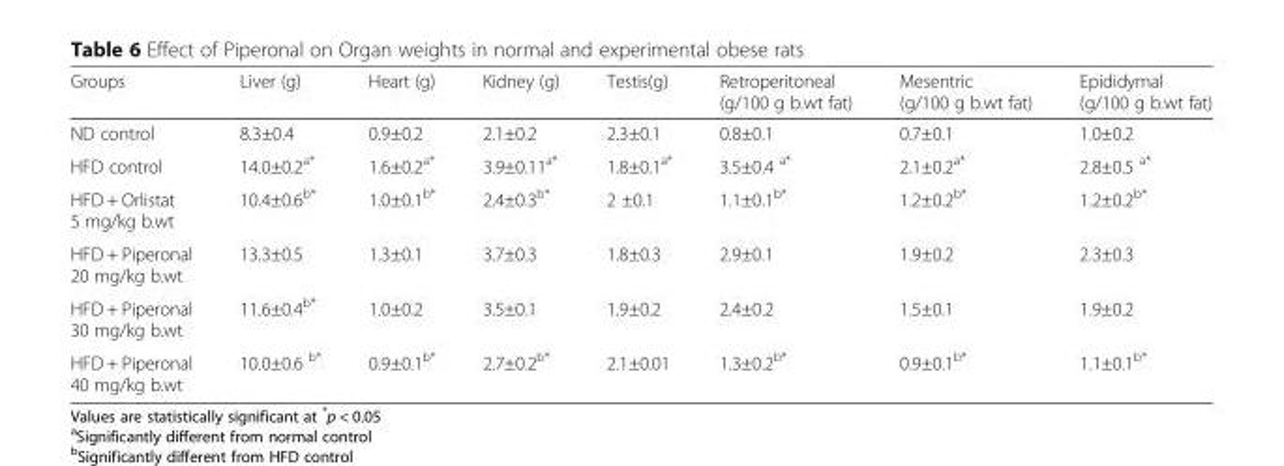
<table><thead><tr><td>Groups</td><td>Liver (g)</td><td>Heart (g)</td><td>Kidney (g)</td><td>Testis(g)</td><td>Retroperitoneal (g/100 g b.wt fat)</td><td>Mesentric (g/100 g b.wt fat)</td><td>Epididymal (g/100 g b.wt fat)</td></tr></thead><tbody><tr><td>ND control</td><td>8.3±0.4</td><td>0.9±0.2</td><td>2.1±0.2</td><td>2.3±0.1</td><td>0.8±0.1</td><td>0.7±0.1</td><td>1.0±0.2</td></tr><tr><td>HFD control</td><td>14.0±0.2<sup>a*</sup></td><td>1.6±0.2<sup>a*</sup></td><td>3.9±0.11<sup>a*</sup></td><td>1.8±0.1<sup>a*</sup></td><td>3.5±0.4 <sup>a*</sup></td><td>2.1±0.2<sup>a*</sup></td><td>2.8±0.5 <sup>a*</sup></td></tr><tr><td>HFD + Orlistat 5 mg/kg b.wt</td><td>10.4±0.6<sup>b*</sup></td><td>1.0±0.1<sup>b*</sup></td><td>2.4±0.3<sup>b*</sup></td><td>2 ±0.1</td><td>1.1±0.1<sup>b*</sup></td><td>1.2±0.2<sup>b*</sup></td><td>1.2±0.2<sup>b*</sup></td></tr><tr><td>HFD + Piperonal 20 mg/kg b.wt</td><td>13.3±0.5</td><td>1.3±0.1</td><td>3.7±0.3</td><td>1.8±0.3</td><td>2.9±0.1</td><td>1.9±0.2</td><td>2.3±0.3</td></tr><tr><td>HFD + Piperonal 30 mg/kg b.wt</td><td>11.6±0.4<sup>b*</sup></td><td>1.0±0.2</td><td>3.5±0.1</td><td>1.9±0.2</td><td>2.4±0.2</td><td>1.5±0.1</td><td>1.9±0.2</td></tr><tr><td>HFD + Piperonal 40 mg/kg b.wt</td><td>10.0±0.6 <sup>b*</sup></td><td>0.9±0.1<sup>b*</sup></td><td>2.7±0.2<sup>b*</sup></td><td>2.1±0.01</td><td>1.3±0.2<sup>b*</sup></td><td>0.9±0.1<sup>b*</sup></td><td>1.1±0.1<sup>b*</sup></td></tr></tbody></table>